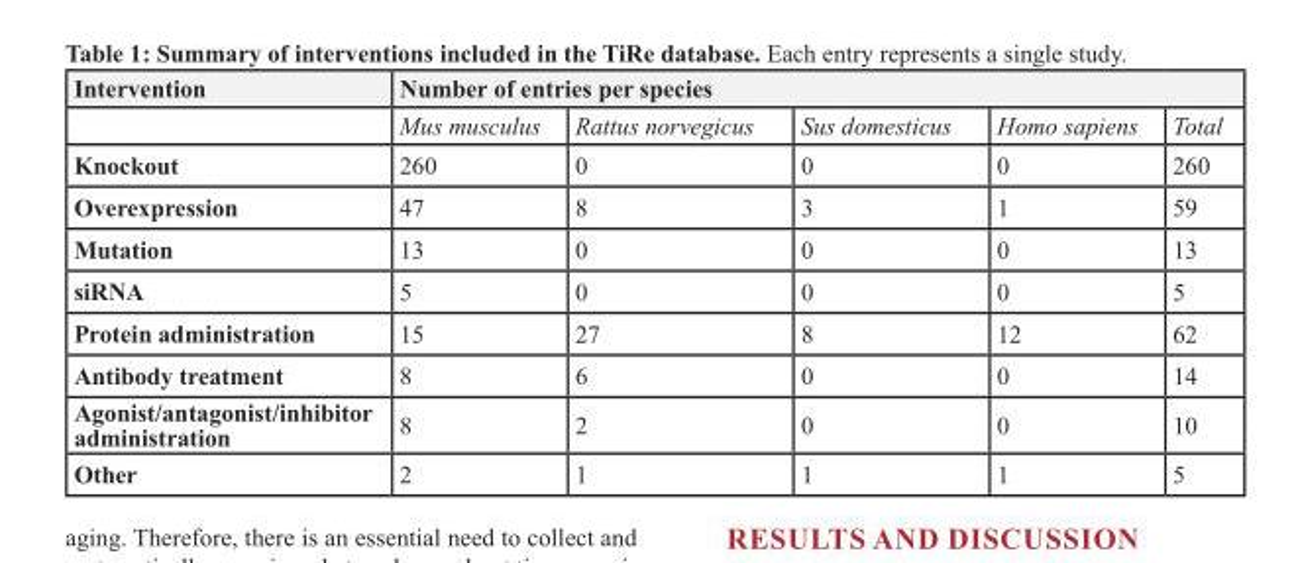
<table><thead><tr><td rowspan="2">Intervention</td><td colspan="5">Number of entries per species</td></tr><tr><td>Mus musculus</td><td>Rattus norvegicus</td><td>Sus domesticus</td><td>Homo sapiens</td><td>Total</td></tr></thead><tbody><tr><td>Knockout</td><td>260</td><td>0</td><td>0</td><td>0</td><td>260</td></tr><tr><td>Overexpression</td><td>47</td><td>8</td><td>3</td><td>1</td><td>59</td></tr><tr><td>Mutation</td><td>13</td><td>0</td><td>0</td><td>0</td><td>13</td></tr><tr><td>siRNA</td><td>5</td><td>0</td><td>0</td><td>0</td><td>5</td></tr><tr><td>Protein administration</td><td>15</td><td>27</td><td>8</td><td>12</td><td>62</td></tr><tr><td>Antibody treatment</td><td>8</td><td>6</td><td>0</td><td>0</td><td>14</td></tr><tr><td>Agonist/antagonist/inhibitor administration</td><td>8</td><td>2</td><td>0</td><td>0</td><td>10</td></tr><tr><td>Other</td><td>2</td><td>1</td><td>1</td><td>1</td><td>5</td></tr></tbody></table>